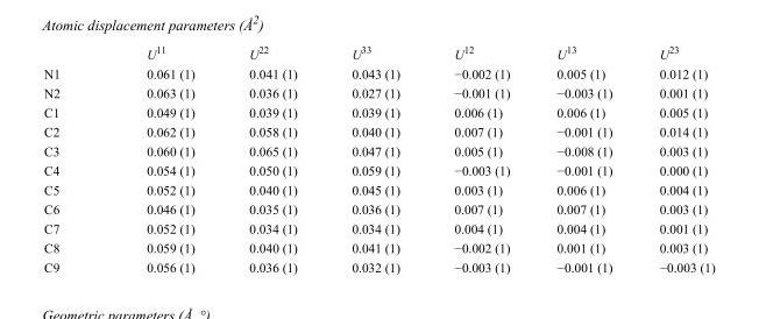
<table><thead><tr><td></td><td>U<sup>11</sup></td><td>U<sup>22</sup></td><td>U<sup>33</sup></td><td>U<sup>12</sup></td><td>U<sup>13</sup></td><td>U<sup>23</sup></td></tr></thead><tbody><tr><td>N1</td><td>0.061 (1)</td><td>0.041 (1)</td><td>0.043 (1)</td><td>−0.002 (1)</td><td>0.005 (1)</td><td>0.012 (1)</td></tr><tr><td>N2</td><td>0.063 (1)</td><td>0.036 (1)</td><td>0.027 (1)</td><td>−0.001 (1)</td><td>−0.003 (1)</td><td>0.001 (1)</td></tr><tr><td>C1</td><td>0.049 (1)</td><td>0.039 (1)</td><td>0.039 (1)</td><td>0.006 (1)</td><td>0.006 (1)</td><td>0.005 (1)</td></tr><tr><td>C2</td><td>0.062 (1)</td><td>0.058 (1)</td><td>0.040 (1)</td><td>0.007 (1)</td><td>−0.001 (1)</td><td>0.014 (1)</td></tr><tr><td>C3</td><td>0.060 (1)</td><td>0.065 (1)</td><td>0.047 (1)</td><td>0.005 (1)</td><td>−0.008 (1)</td><td>0.003 (1)</td></tr><tr><td>C4</td><td>0.054 (1)</td><td>0.050 (1)</td><td>0.059 (1)</td><td>−0.003 (1)</td><td>−0.001 (1)</td><td>0.000 (1)</td></tr><tr><td>C5</td><td>0.052 (1)</td><td>0.040 (1)</td><td>0.045 (1)</td><td>0.003 (1)</td><td>0.006 (1)</td><td>0.004 (1)</td></tr><tr><td>C6</td><td>0.046 (1)</td><td>0.035 (1)</td><td>0.036 (1)</td><td>0.007 (1)</td><td>0.007 (1)</td><td>0.003 (1)</td></tr><tr><td>C7</td><td>0.052 (1)</td><td>0.034 (1)</td><td>0.034 (1)</td><td>0.004 (1)</td><td>0.004 (1)</td><td>0.001 (1)</td></tr><tr><td>C8</td><td>0.059 (1)</td><td>0.040 (1)</td><td>0.041 (1)</td><td>−0.002 (1)</td><td>0.001 (1)</td><td>0.003 (1)</td></tr><tr><td>C9</td><td>0.056 (1)</td><td>0.036 (1)</td><td>0.032 (1)</td><td>−0.003 (1)</td><td>−0.001 (1)</td><td>−0.003 (1)</td></tr></tbody></table>